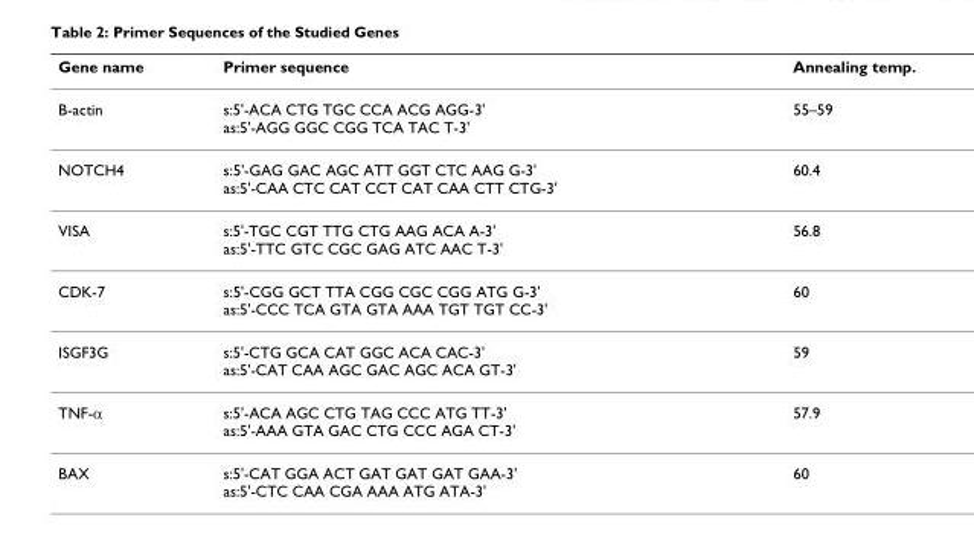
<table><thead><tr><td>Gene name</td><td>Primer sequence</td><td>Annealing temp.</td></tr></thead><tbody><tr><td>B-actin</td><td>s:5&#x27;-ACA CTG TGC CCA ACG AGG-3&#x27; as:5&#x27;-AGG GGC CGG TCA TAC T-3&#x27;</td><td>55–59</td></tr><tr><td>NOTCH4</td><td>s:5&#x27;-GAG GAC AGC ATT GGT CTC AAG G-3&#x27; as:5&#x27;-CAA CTC CAT CCT CAT CAA CTT CTG-3&#x27;</td><td>60.4</td></tr><tr><td>VISA</td><td>s:5&#x27;-TGC CGT TTG CTG AAG ACA A-3&#x27; as:5&#x27;-TTC GTC CGC GAG ATC AAC T-3&#x27;</td><td>56.8</td></tr><tr><td>CDK-7</td><td>s:5&#x27;-CGG GCT TTA CGG CGC CGG ATG G-3&#x27; as:5&#x27;-CCC TCA GTA GTA AAA TGT TGT CC-3&#x27;</td><td>60</td></tr><tr><td>ISGF3G</td><td>s:5&#x27;-CTG GCA CAT GGC ACA CAC-3&#x27; as:5&#x27;-CAT CAA AGC GAC AGC ACA GT-3&#x27;</td><td>59</td></tr><tr><td>TNF-α</td><td>s:5&#x27;-ACA AGC CTG TAG CCC ATG TT-3&#x27; as:5&#x27;-AAA GTA GAC CTG CCC AGA CT-3&#x27;</td><td>57.9</td></tr><tr><td>BAX</td><td>s:5&#x27;-CAT GGA ACT GAT GAT GAT GAA-3&#x27; as:5&#x27;-CTC CAA CGA AAA ATG ATA-3&#x27;</td><td>60</td></tr></tbody></table>